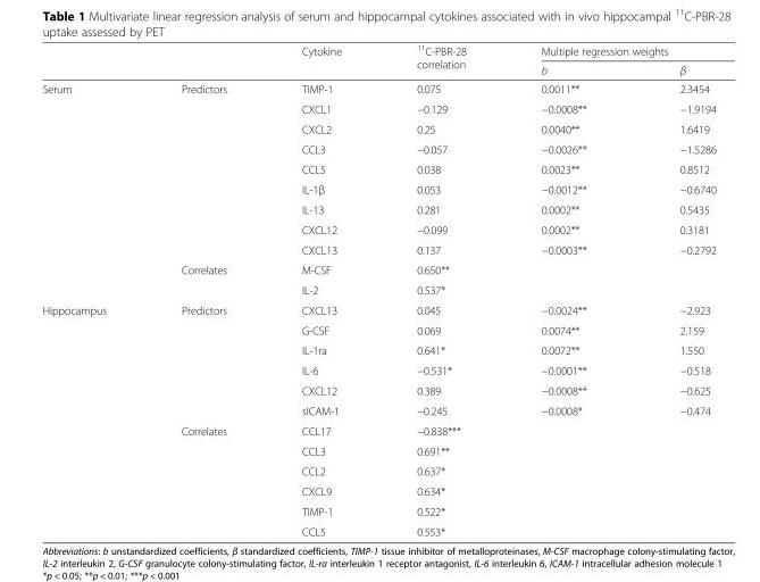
<table><thead><tr><td rowspan="2"></td><td rowspan="2"></td><td rowspan="2">Cytokine</td><td rowspan="2"><sup>11</sup>C-PBR-28 correlation</td><td colspan="2">Multiple regression weights</td></tr><tr><td>b</td><td>β</td></tr></thead><tbody><tr><td rowspan="11">Serum</td><td rowspan="9">Predictors</td><td>TIMP-1</td><td>0.075</td><td>0.0011**</td><td>2.3454</td></tr><tr><td>CXCL1</td><td>−0.129</td><td>−0.0008**</td><td>−1.9194</td></tr><tr><td>CXCL2</td><td>0.25</td><td>0.0040**</td><td>1.6419</td></tr><tr><td>CCL3</td><td>−0.057</td><td>−0.0026**</td><td>−1.5286</td></tr><tr><td>CCL5</td><td>0.038</td><td>0.0023**</td><td>0.8512</td></tr><tr><td>IL-1β</td><td>0.053</td><td>−0.0012**</td><td>−0.6740</td></tr><tr><td>IL-13</td><td>0.281</td><td>0.0002**</td><td>0.5435</td></tr><tr><td>CXCL12</td><td>−0.099</td><td>0.0002**</td><td>0.3181</td></tr><tr><td>CXCL13</td><td>0.137</td><td>−0.0003**</td><td>−0.2792</td></tr><tr><td rowspan="2">Correlates</td><td>M-CSF</td><td>0.650**</td><td></td><td></td></tr><tr><td>IL-2</td><td>0.537*</td><td></td><td></td></tr><tr><td rowspan="12">Hippocampus</td><td rowspan="6">Predictors</td><td>CXCL13</td><td>0.045</td><td>−0.0024**</td><td>−2.923</td></tr><tr><td>G-CSF</td><td>0.069</td><td>0.0074**</td><td>2.159</td></tr><tr><td>IL-1ra</td><td>0.641*</td><td>0.0072**</td><td>1.550</td></tr><tr><td>IL-6</td><td>−0.531*</td><td>−0.0001**</td><td>−0.518</td></tr><tr><td>CXCL12</td><td>0.389</td><td>−0.0008**</td><td>−0.625</td></tr><tr><td>sICAM-1</td><td>−0.245</td><td>−0.0008*</td><td>−0.474</td></tr><tr><td rowspan="6">Correlates</td><td>CCL17</td><td>−0.838***</td><td></td><td></td></tr><tr><td>CCL3</td><td>0.691**</td><td></td><td></td></tr><tr><td>CCL2</td><td>0.637*</td><td></td><td></td></tr><tr><td>CXCL9</td><td>0.634*</td><td></td><td></td></tr><tr><td>TIMP-1</td><td>0.522*</td><td></td><td></td></tr><tr><td>CCL5</td><td>0.553*</td><td></td><td></td></tr></tbody></table>